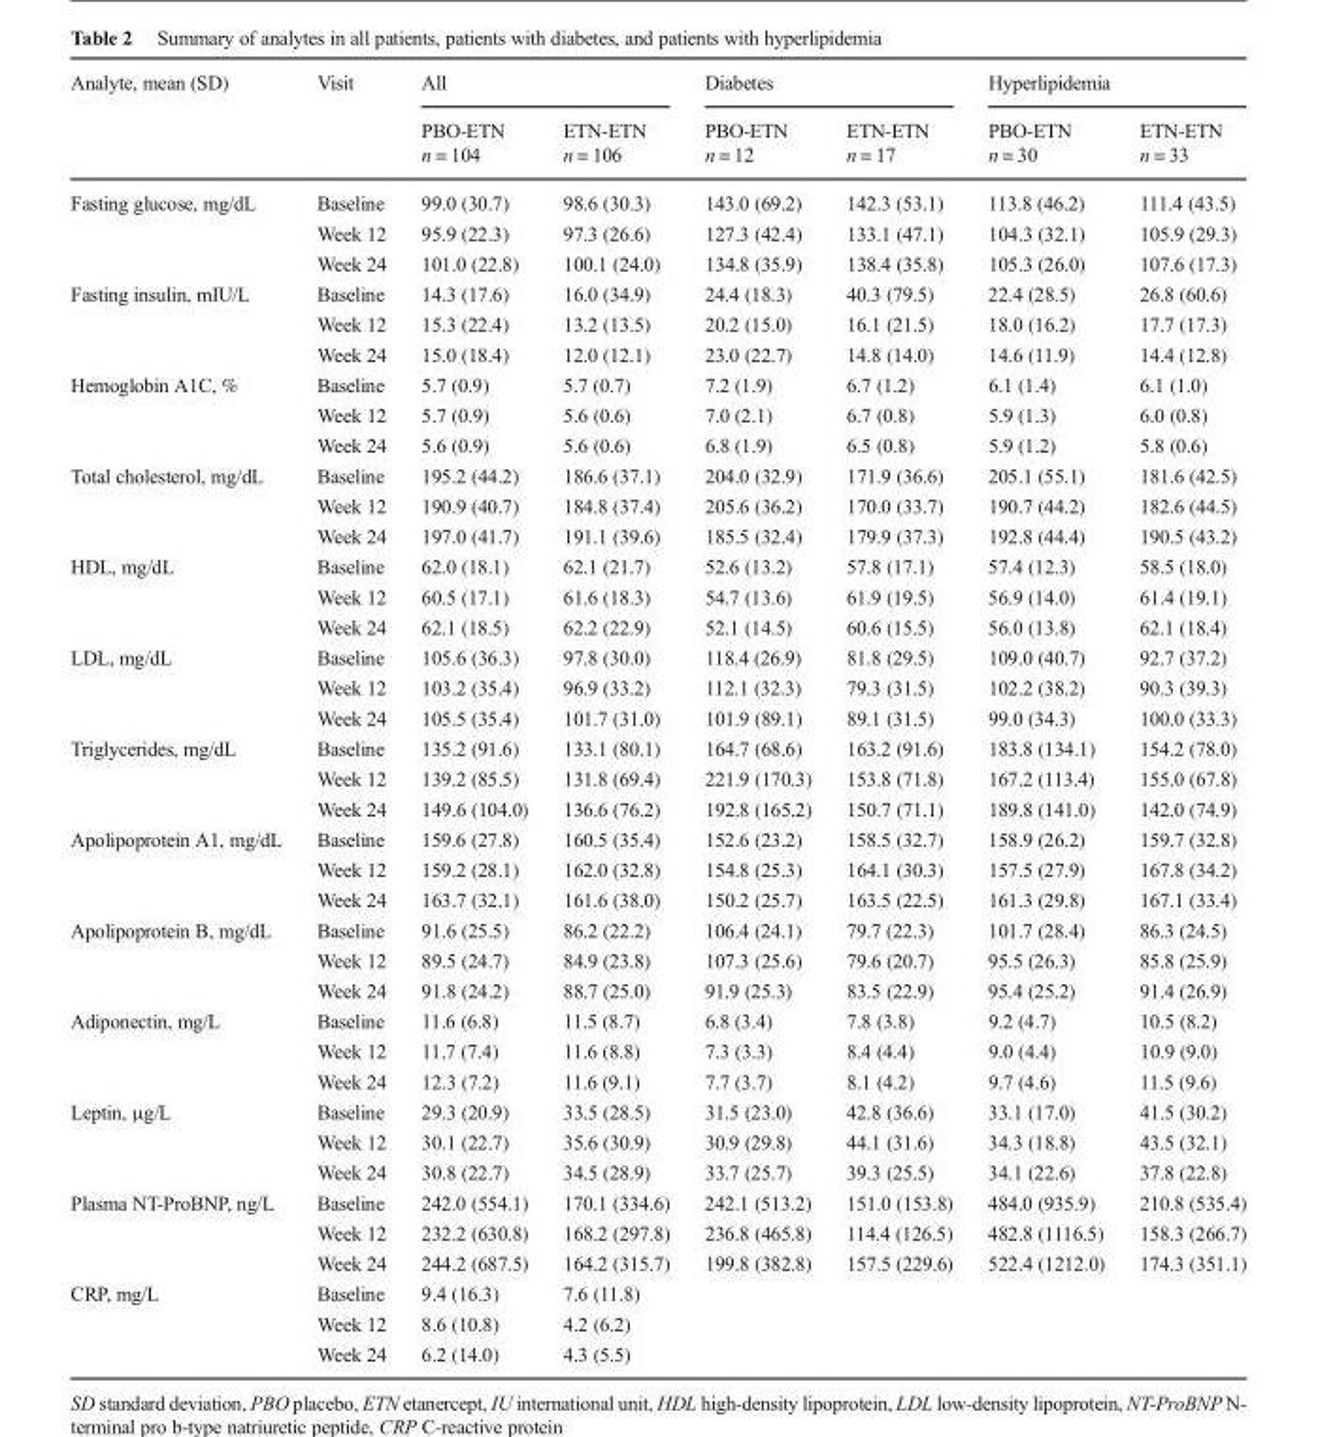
<table><thead><tr><td rowspan="3">Analyte, mean (SD)</td><td rowspan="3">Visit</td><td colspan="2">All</td><td colspan="2">Diabetes</td><td colspan="2">Hyperlipidemia</td></tr><tr><td rowspan="2">PBO-ETN n = 104</td><td rowspan="2">ETN-ETN n = 106</td><td rowspan="2">PBO-ETN n = 12</td><td rowspan="2">ETN-ETN n = 17</td><td rowspan="2">PBO-ETN n = 30</td><td rowspan="2">ETN-ETN n = 33</td></tr><tr></tr></thead><tbody><tr><td rowspan="3">Fasting glucose, mg/dL</td><td>Baseline</td><td>99.0 (30.7)</td><td>98.6 (30.3)</td><td>143.0 (69.2)</td><td>142.3 (53.1)</td><td>113.8 (46.2)</td><td>111.4 (43.5)</td></tr><tr><td>Week 12</td><td>95.9 (22.3)</td><td>97.3 (26.6)</td><td>127.3 (42.4)</td><td>133.1 (47.1)</td><td>104.3 (32.1)</td><td>105.9 (29.3)</td></tr><tr><td>Week 24</td><td>101.0 (22.8)</td><td>100.1 (24.0)</td><td>134.8 (35.9)</td><td>138.4 (35.8)</td><td>105.3 (26.0)</td><td>107.6 (17.3)</td></tr><tr><td rowspan="3">Fasting insulin, mIU/L</td><td>Baseline</td><td>14.3 (17.6)</td><td>16.0 (34.9)</td><td>24.4 (18.3)</td><td>40.3 (79.5)</td><td>22.4 (28.5)</td><td>26.8 (60.6)</td></tr><tr><td>Week 12</td><td>15.3 (22.4)</td><td>13.2 (13.5)</td><td>20.2 (15.0)</td><td>16.1 (21.5)</td><td>18.0 (16.2)</td><td>17.7 (17.3)</td></tr><tr><td>Week 24</td><td>15.0 (18.4)</td><td>12.0 (12.1)</td><td>23.0 (22.7)</td><td>14.8 (14.0)</td><td>14.6 (11.9)</td><td>14.4 (12.8)</td></tr><tr><td rowspan="3">Hemoglobin A1C, %</td><td>Baseline</td><td>5.7 (0.9)</td><td>5.7 (0.7)</td><td>7.2 (1.9)</td><td>6.7 (1.2)</td><td>6.1 (1.4)</td><td>6.1 (1.0)</td></tr><tr><td>Week 12</td><td>5.7 (0.9)</td><td>5.6 (0.6)</td><td>7.0 (2.1)</td><td>6.7 (0.8)</td><td>5.9 (1.3)</td><td>6.0 (0.8)</td></tr><tr><td>Week 24</td><td>5.6 (0.9)</td><td>5.6 (0.6)</td><td>6.8 (1.9)</td><td>6.5 (0.8)</td><td>5.9 (1.2)</td><td>5.8 (0.6)</td></tr><tr><td rowspan="3">Total cholesterol, mg/dL</td><td>Baseline</td><td>195.2 (44.2)</td><td>186.6 (37.1)</td><td>204.0 (32.9)</td><td>171.9 (36.6)</td><td>205.1 (55.1)</td><td>181.6 (42.5)</td></tr><tr><td>Week 12</td><td>190.9 (40.7)</td><td>184.8 (37.4)</td><td>205.6 (36.2)</td><td>170.0 (33.7)</td><td>190.7 (44.2)</td><td>182.6 (44.5)</td></tr><tr><td>Week 24</td><td>197.0 (41.7)</td><td>191.1 (39.6)</td><td>185.5 (32.4)</td><td>179.9 (37.3)</td><td>192.8 (44.4)</td><td>190.5 (43.2)</td></tr><tr><td rowspan="3">HDL, mg/dL</td><td>Baseline</td><td>62.0 (18.1)</td><td>62.1 (21.7)</td><td>52.6 (13.2)</td><td>57.8 (17.1)</td><td>57.4 (12.3)</td><td>58.5 (18.0)</td></tr><tr><td>Week 12</td><td>60.5 (17.1)</td><td>61.6 (18.3)</td><td>54.7 (13.6)</td><td>61.9 (19.5)</td><td>56.9 (14.0)</td><td>61.4 (19.1)</td></tr><tr><td>Week 24</td><td>62.1 (18.5)</td><td>62.2 (22.9)</td><td>52.1 (14.5)</td><td>60.6 (15.5)</td><td>56.0 (13.8)</td><td>62.1 (18.4)</td></tr><tr><td rowspan="3">LDL, mg/dL</td><td>Baseline</td><td>105.6 (36.3)</td><td>97.8 (30.0)</td><td>118.4 (26.9)</td><td>81.8 (29.5)</td><td>109.0 (40.7)</td><td>92.7 (37.2)</td></tr><tr><td>Week 12</td><td>103.2 (35.4)</td><td>96.9 (33.2)</td><td>112.1 (32.3)</td><td>79.3 (31.5)</td><td>102.2 (38.2)</td><td>90.3 (39.3)</td></tr><tr><td>Week 24</td><td>105.5 (35.4)</td><td>101.7 (31.0)</td><td>101.9 (89.1)</td><td>89.1 (31.5)</td><td>99.0 (34.3)</td><td>100.0 (33.3)</td></tr><tr><td rowspan="3">Triglycerides, mg/dL</td><td>Baseline</td><td>135.2 (91.6)</td><td>133.1 (80.1)</td><td>164.7 (68.6)</td><td>163.2 (91.6)</td><td>183.8 (134.1)</td><td>154.2 (78.0)</td></tr><tr><td>Week 12</td><td>139.2 (85.5)</td><td>131.8 (69.4)</td><td>221.9 (170.3)</td><td>153.8 (71.8)</td><td>167.2 (113.4)</td><td>155.0 (67.8)</td></tr><tr><td>Week 24</td><td>149.6 (104.0)</td><td>136.6 (76.2)</td><td>192.8 (165.2)</td><td>150.7 (71.1)</td><td>189.8 (141.0)</td><td>142.0 (74.9)</td></tr><tr><td rowspan="3">Apolipoprotein A1, mg/dL</td><td>Baseline</td><td>159.6 (27.8)</td><td>160.5 (35.4)</td><td>152.6 (23.2)</td><td>158.5 (32.7)</td><td>158.9 (26.2)</td><td>159.7 (32.8)</td></tr><tr><td>Week 12</td><td>159.2 (28.1)</td><td>162.0 (32.8)</td><td>154.8 (25.3)</td><td>164.1 (30.3)</td><td>157.5 (27.9)</td><td>167.8 (34.2)</td></tr><tr><td>Week 24</td><td>163.7 (32.1)</td><td>161.6 (38.0)</td><td>150.2 (25.7)</td><td>163.5 (22.5)</td><td>161.3 (29.8)</td><td>167.1 (33.4)</td></tr><tr><td rowspan="3">Apolipoprotein B, mg/dL</td><td>Baseline</td><td>91.6 (25.5)</td><td>86.2 (22.2)</td><td>106.4 (24.1)</td><td>79.7 (22.3)</td><td>101.7 (28.4)</td><td>86.3 (24.5)</td></tr><tr><td>Week 12</td><td>89.5 (24.7)</td><td>84.9 (23.8)</td><td>107.3 (25.6)</td><td>79.6 (20.7)</td><td>95.5 (26.3)</td><td>85.8 (25.9)</td></tr><tr><td>Week 24</td><td>91.8 (24.2)</td><td>88.7 (25.0)</td><td>91.9 (25.3)</td><td>83.5 (22.9)</td><td>95.4 (25.2)</td><td>91.4 (26.9)</td></tr><tr><td rowspan="3">Adiponectin, mg/L</td><td>Baseline</td><td>11.6 (6.8)</td><td>11.5 (8.7)</td><td>6.8 (3.4)</td><td>7.8 (3.8)</td><td>9.2 (4.7)</td><td>10.5 (8.2)</td></tr><tr><td>Week 12</td><td>11.7 (7.4)</td><td>11.6 (8.8)</td><td>7.3 (3.3)</td><td>8.4 (4.4)</td><td>9.0 (4.4)</td><td>10.9 (9.0)</td></tr><tr><td>Week 24</td><td>12.3 (7.2)</td><td>11.6 (9.1)</td><td>7.7 (3.7)</td><td>8.1 (4.2)</td><td>9.7 (4.6)</td><td>11.5 (9.6)</td></tr><tr><td rowspan="3">Leptin, μg/L</td><td>Baseline</td><td>29.3 (20.9)</td><td>33.5 (28.5)</td><td>31.5 (23.0)</td><td>42.8 (36.6)</td><td>33.1 (17.0)</td><td>41.5 (30.2)</td></tr><tr><td>Week 12</td><td>30.1 (22.7)</td><td>35.6 (30.9)</td><td>30.9 (29.8)</td><td>44.1 (31.6)</td><td>34.3 (18.8)</td><td>43.5 (32.1)</td></tr><tr><td>Week 24</td><td>30.8 (22.7)</td><td>34.5 (28.9)</td><td>33.7 (25.7)</td><td>39.3 (25.5)</td><td>34.1 (22.6)</td><td>37.8 (22.8)</td></tr><tr><td rowspan="3">Plasma NT-ProBNP, ng/L</td><td>Baseline</td><td>242.0 (554.1)</td><td>170.1 (334.6)</td><td>242.1 (513.2)</td><td>151.0 (153.8)</td><td>484.0 (935.9)</td><td>210.8 (535.4)</td></tr><tr><td>Week 12</td><td>232.2 (630.8)</td><td>168.2 (297.8)</td><td>236.8 (465.8)</td><td>114.4 (126.5)</td><td>482.8 (1116.5)</td><td>158.3 (266.7)</td></tr><tr><td>Week 24</td><td>244.2 (687.5)</td><td>164.2 (315.7)</td><td>199.8 (382.8)</td><td>157.5 (229.6)</td><td>522.4 (1212.0)</td><td>174.3 (351.1)</td></tr><tr><td rowspan="3">CRP, mg/L</td><td>Baseline</td><td>9.4 (16.3)</td><td>7.6 (11.8)</td><td></td><td></td><td></td><td></td></tr><tr><td>Week 12</td><td>8.6 (10.8)</td><td>4.2 (6.2)</td><td></td><td></td><td></td><td></td></tr><tr><td>Week 24</td><td>6.2 (14.0)</td><td>4.3 (5.5)</td><td></td><td></td><td></td><td></td></tr></tbody></table>